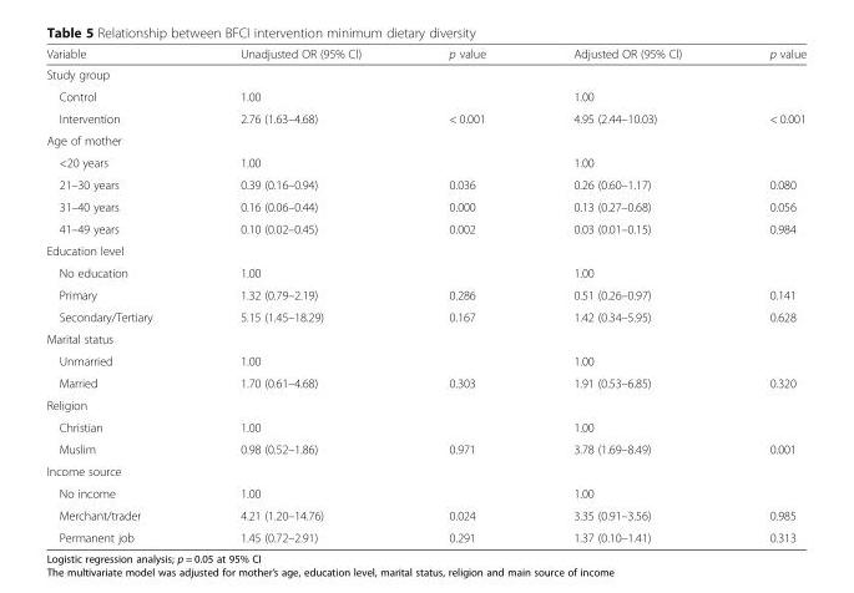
<table><thead><tr><td>Variable</td><td>Unadjusted OR (95% Cl)</td><td>p value</td><td>Adjusted OR (95% Cl)</td><td>p value</td></tr></thead><tbody><tr><td colspan="5">Study group</td></tr><tr><td>Control</td><td>1.00</td><td></td><td>1.00</td><td></td></tr><tr><td>Intervention</td><td>2.76 (1.63–4.68)</td><td>&lt; 0.001</td><td>4.95 (2.44–10.03)</td><td>&lt; 0.001</td></tr><tr><td colspan="5">Age of mother</td></tr><tr><td>&lt;20 years</td><td>1.00</td><td></td><td>1.00</td><td></td></tr><tr><td>21–30 years</td><td>0.39 (0.16–0.94)</td><td>0.036</td><td>0.26 (0.60–1.17)</td><td>0.080</td></tr><tr><td>31–40 years</td><td>0.16 (0.06–0.44)</td><td>0.000</td><td>0.13 (0.27–0.68)</td><td>0.056</td></tr><tr><td>41–49 years</td><td>0.10 (0.02–0.45)</td><td>0.002</td><td>0.03 (0.01–0.15)</td><td>0.984</td></tr><tr><td colspan="5">Education level</td></tr><tr><td>No education</td><td>1.00</td><td></td><td>1.00</td><td></td></tr><tr><td>Primary</td><td>1.32 (0.79–2.19)</td><td>0.286</td><td>0.51 (0.26–0.97)</td><td>0.141</td></tr><tr><td>Secondary/Tertiary</td><td>5.15 (1.45–18.29)</td><td>0.167</td><td>1.42 (0.34–5.95)</td><td>0.628</td></tr><tr><td colspan="5">Marital status</td></tr><tr><td>Unmarried</td><td>1.00</td><td></td><td>1.00</td><td></td></tr><tr><td>Married</td><td>1.70 (0.61–4.68)</td><td>0.303</td><td>1.91 (0.53–6.85)</td><td>0.320</td></tr><tr><td colspan="5">Religion</td></tr><tr><td>Christian</td><td>1.00</td><td></td><td>1.00</td><td></td></tr><tr><td>Muslim</td><td>0.98 (0.52–1.86)</td><td>0.971</td><td>3.78 (1.69–8.49)</td><td>0.001</td></tr><tr><td colspan="5">Income source</td></tr><tr><td>No income</td><td>1.00</td><td></td><td>1.00</td><td></td></tr><tr><td>Merchant/trader</td><td>4.21 (1.20–14.76)</td><td>0.024</td><td>3.35 (0.91–3.56)</td><td>0.985</td></tr><tr><td>Permanent job</td><td>1.45 (0.72–2.91)</td><td>0.291</td><td>1.37 (0.10–1.41)</td><td>0.313</td></tr></tbody></table>